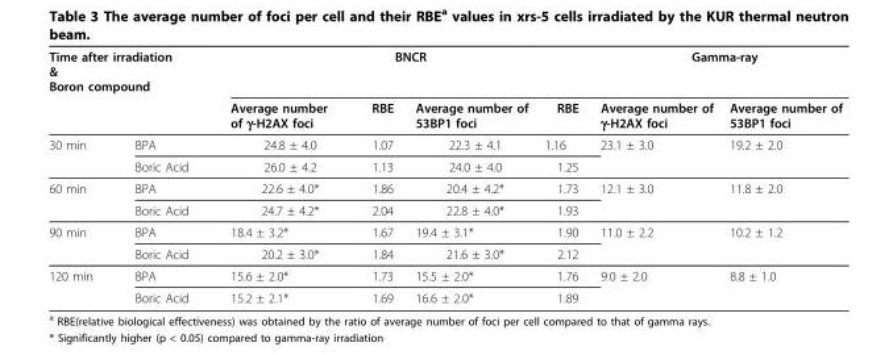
<table><thead><tr><td colspan="2">Time after irradiation &amp; Boron compound</td><td colspan="4">BNCR</td><td colspan="2">Gamma-ray</td></tr><tr><td></td><td></td><td>Average number of γ-H2AX foci</td><td>RBE</td><td>Average number of 53BP1 foci</td><td>RBE</td><td>Average number of γ-H2AX foci</td><td>Average number of 53BP1 foci</td></tr></thead><tbody><tr><td rowspan="2">30 min</td><td>BPA</td><td>24.8 ± 4.0</td><td>1.07</td><td>22.3 ± 4.1</td><td>1.16</td><td>23.1 ± 3.0</td><td>19.2 ± 2.0</td></tr><tr><td>Boric Acid</td><td>26.0 ± 4.2</td><td>1.13</td><td>24.0 ± 4.0</td><td>1.25</td><td></td><td></td></tr><tr><td rowspan="2">60 min</td><td>BPA</td><td>22.6 ± 4.0*</td><td>1.86</td><td>20.4 ± 4.2*</td><td>1.73</td><td>12.1 ± 3.0</td><td>11.8 ± 2.0</td></tr><tr><td>Boric Acid</td><td>24.7 ± 4.2*</td><td>2.04</td><td>22.8 ± 4.0*</td><td>1.93</td><td></td><td></td></tr><tr><td rowspan="2">90 min</td><td>BPA</td><td>18.4 ± 3.2*</td><td>1.67</td><td>19.4 ± 3.1*</td><td>1.90</td><td>11.0 ± 2.2</td><td>10.2 ± 1.2</td></tr><tr><td>Boric Acid</td><td>20.2 ± 3.0*</td><td>1.84</td><td>21.6 ± 3.0*</td><td>2.12</td><td></td><td></td></tr><tr><td rowspan="2">120 min</td><td>BPA</td><td>15.6 ± 2.0*</td><td>1.73</td><td>15.5 ± 2.0*</td><td>1.76</td><td>9.0 ± 2.0</td><td>8.8 ± 1.0</td></tr><tr><td>Boric Acid</td><td>15.2 ± 2.1*</td><td>1.69</td><td>16.6 ± 2.0*</td><td>1.89</td><td></td><td></td></tr></tbody></table>